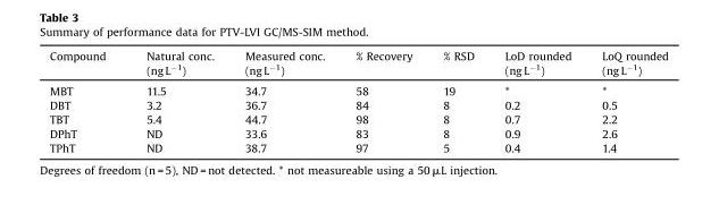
<table><thead><tr><td>Compound</td><td>Natural conc. (ng L<sup>−1</sup>)</td><td>Measured conc. (ng L<sup>−1</sup>)</td><td>% Recovery</td><td>% RSD</td><td>LoD rounded (ng L<sup>−1</sup>)</td><td>LoQ rounded (ng L<sup>−1</sup>)</td></tr></thead><tbody><tr><td>MBT</td><td>11.5</td><td>34.7</td><td>58</td><td>19</td><td>*</td><td>*</td></tr><tr><td>DBT</td><td>3.2</td><td>36.7</td><td>84</td><td>8</td><td>0.2</td><td>0.5</td></tr><tr><td>TBT</td><td>5.4</td><td>44.7</td><td>98</td><td>8</td><td>0.7</td><td>2.2</td></tr><tr><td>DPhT</td><td>ND</td><td>33.6</td><td>83</td><td>8</td><td>0.9</td><td>2.6</td></tr><tr><td>TPhT</td><td>ND</td><td>38.7</td><td>97</td><td>5</td><td>0.4</td><td>1.4</td></tr></tbody></table>